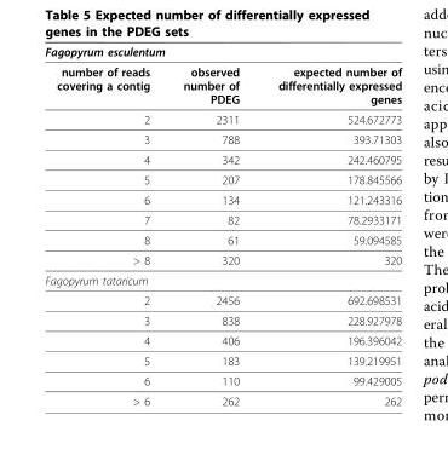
<table><thead><tr><td colspan="3">Fagopyrum esculentum</td></tr><tr><td>number of reads covering a contig</td><td>observed number of PDEG</td><td>expected number of differentially expressed genes</td></tr></thead><tbody><tr><td>2</td><td>2311</td><td>524.672773</td></tr><tr><td>3</td><td>788</td><td>393.71303</td></tr><tr><td>4</td><td>342</td><td>242.460795</td></tr><tr><td>5</td><td>207</td><td>178.845566</td></tr><tr><td>6</td><td>134</td><td>121.243316</td></tr><tr><td>7</td><td>82</td><td>78.2933171</td></tr><tr><td>8</td><td>61</td><td>59.094585</td></tr><tr><td>&gt; 8</td><td>320</td><td>320</td></tr><tr><td colspan="3">Fagopyrum tataricum</td></tr><tr><td>2</td><td>2456</td><td>692.698531</td></tr><tr><td>3</td><td>838</td><td>228.927978</td></tr><tr><td>4</td><td>406</td><td>196.396042</td></tr><tr><td>5</td><td>183</td><td>139.219951</td></tr><tr><td>6</td><td>110</td><td>99.429005</td></tr><tr><td>&gt; 6</td><td>262</td><td>262</td></tr></tbody></table>